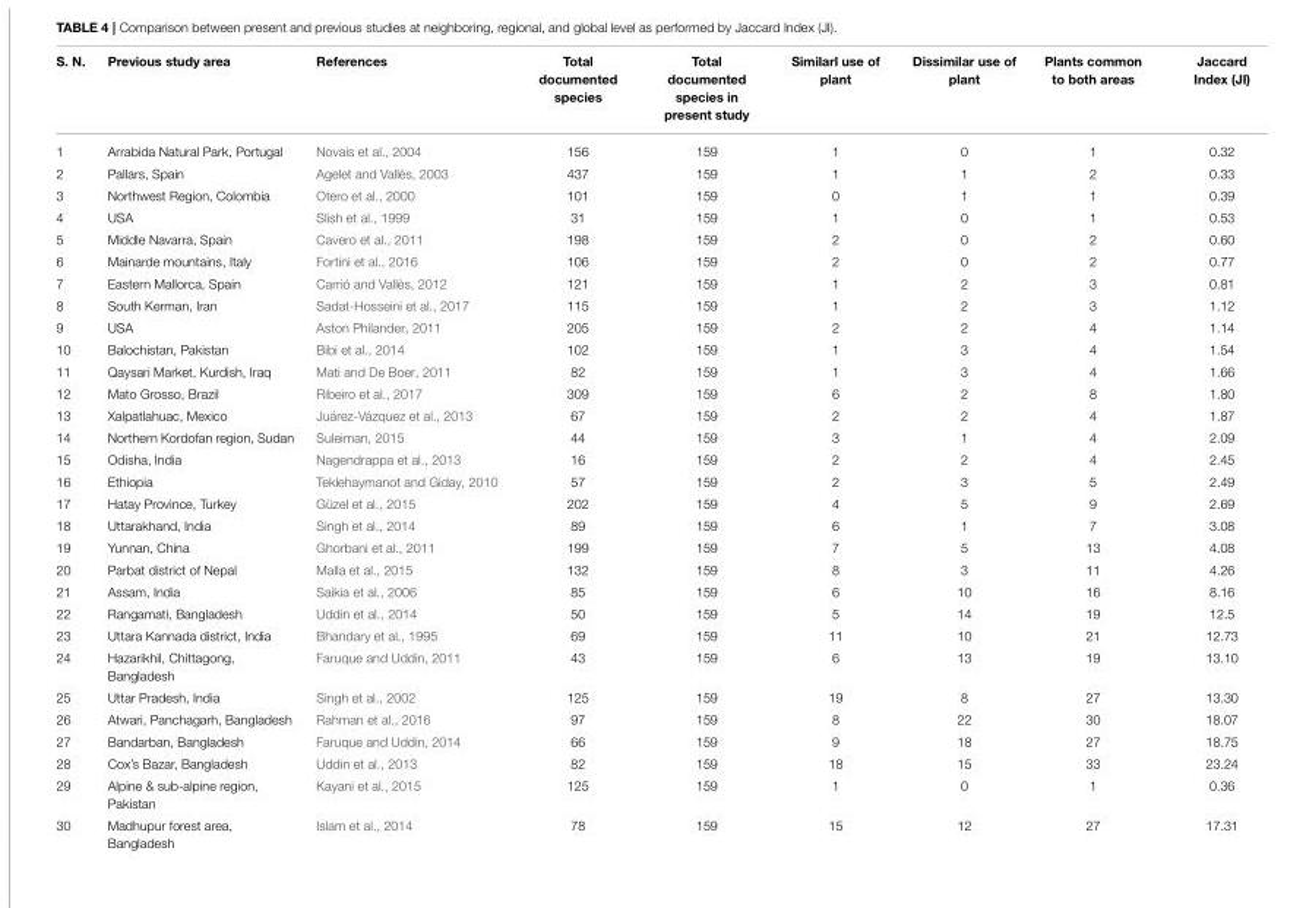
<table><thead><tr><td>S. N.</td><td>Previous study area</td><td>References</td><td>Total documented species</td><td>Total documented species in present study</td><td>Similarl use of plant</td><td>Dissimilar use of plant</td><td>Plants common to both areas</td><td>Jaccard Index (JI)</td></tr></thead><tbody><tr><td>1</td><td>Arrabida Natural Park, Portugal</td><td>Novais et al., 2004</td><td>156</td><td>159</td><td>1</td><td>0</td><td>1</td><td>0.32</td></tr><tr><td>2</td><td>Pallars, Spain</td><td>Agelet and Vallès, 2003</td><td>437</td><td>159</td><td>1</td><td>1</td><td>2</td><td>0.33</td></tr><tr><td>3</td><td>Northwest Region, Colombia</td><td>Otero et al., 2000</td><td>101</td><td>159</td><td>0</td><td>1</td><td>1</td><td>0.39</td></tr><tr><td>4</td><td>USA</td><td>Slish et al., 1999</td><td>31</td><td>159</td><td>1</td><td>0</td><td>1</td><td>0.53</td></tr><tr><td>5</td><td>Middle Navarra, Spain</td><td>Cavero et al., 2011</td><td>198</td><td>159</td><td>2</td><td>0</td><td>2</td><td>0.60</td></tr><tr><td>6</td><td>Mainarde mountains, Italy</td><td>Fortini et al., 2016</td><td>106</td><td>159</td><td>2</td><td>0</td><td>2</td><td>0.77</td></tr><tr><td>7</td><td>Eastern Mallorca, Spain</td><td>Carrió and Vallès, 2012</td><td>121</td><td>159</td><td>1</td><td>2</td><td>3</td><td>0.81</td></tr><tr><td>8</td><td>South Kerman, Iran</td><td>Sadat-Hosseini et al., 2017</td><td>115</td><td>159</td><td>1</td><td>2</td><td>3</td><td>1.12</td></tr><tr><td>9</td><td>USA</td><td>Aston Philander, 2011</td><td>205</td><td>159</td><td>2</td><td>2</td><td>4</td><td>1.14</td></tr><tr><td>10</td><td>Balochistan, Pakistan</td><td>Bibi et al., 2014</td><td>102</td><td>159</td><td>1</td><td>3</td><td>4</td><td>1.54</td></tr><tr><td>11</td><td>Qaysari Market, Kurdish, Iraq</td><td>Mati and De Boer, 2011</td><td>82</td><td>159</td><td>1</td><td>3</td><td>4</td><td>1.66</td></tr><tr><td>12</td><td>Mato Grosso, Brazil</td><td>Ribeiro et al., 2017</td><td>309</td><td>159</td><td>6</td><td>2</td><td>8</td><td>1.80</td></tr><tr><td>13</td><td>Xalpatlahuac, Mexico</td><td>Juárez-Vázquez et al., 2013</td><td>67</td><td>159</td><td>2</td><td>2</td><td>4</td><td>1.87</td></tr><tr><td>14</td><td>Northern Kordofan region, Sudan</td><td>Suleiman, 2015</td><td>44</td><td>159</td><td>3</td><td>1</td><td>4</td><td>2.09</td></tr><tr><td>15</td><td>Odisha, India</td><td>Nagendrappa et al., 2013</td><td>16</td><td>159</td><td>2</td><td>2</td><td>4</td><td>2.45</td></tr><tr><td>16</td><td>Ethiopia</td><td>Teklehaymanot and Giday, 2010</td><td>57</td><td>159</td><td>2</td><td>3</td><td>5</td><td>2.49</td></tr><tr><td>17</td><td>Hatay Province, Turkey</td><td>Güzel et al., 2015</td><td>202</td><td>159</td><td>4</td><td>5</td><td>9</td><td>2.69</td></tr><tr><td>18</td><td>Uttarakhand, India</td><td>Singh et al., 2014</td><td>89</td><td>159</td><td>6</td><td>1</td><td>7</td><td>3.08</td></tr><tr><td>19</td><td>Yunnan, China</td><td>Ghorbani et al., 2011</td><td>199</td><td>159</td><td>7</td><td>5</td><td>13</td><td>4.08</td></tr><tr><td>20</td><td>Parbat district of Nepal</td><td>Malla et al., 2015</td><td>132</td><td>159</td><td>8</td><td>3</td><td>11</td><td>4.26</td></tr><tr><td>21</td><td>Assam, India</td><td>Saikia et al., 2006</td><td>85</td><td>159</td><td>6</td><td>10</td><td>16</td><td>8.16</td></tr><tr><td>22</td><td>Rangamati, Bangladesh</td><td>Uddin et al., 2014</td><td>50</td><td>159</td><td>5</td><td>14</td><td>19</td><td>12.5</td></tr><tr><td>23</td><td>Uttara Kannada district, India</td><td>Bhandary et al., 1995</td><td>69</td><td>159</td><td>11</td><td>10</td><td>21</td><td>12.73</td></tr><tr><td>24</td><td>Hazarikhil, Chittagong, Bangladesh</td><td>Faruque and Uddin, 2011</td><td>43</td><td>159</td><td>6</td><td>13</td><td>19</td><td>13.10</td></tr><tr><td>25</td><td>Uttar Pradesh, India</td><td>Singh et al., 2002</td><td>125</td><td>159</td><td>19</td><td>8</td><td>27</td><td>13.30</td></tr><tr><td>26</td><td>Atwari, Panchagarh, Bangladesh</td><td>Rahman et al., 2016</td><td>97</td><td>159</td><td>8</td><td>22</td><td>30</td><td>18.07</td></tr><tr><td>27</td><td>Bandarban, Bangladesh</td><td>Faruque and Uddin, 2014</td><td>66</td><td>159</td><td>9</td><td>18</td><td>27</td><td>18.75</td></tr><tr><td>28</td><td>Cox’s Bazar, Bangladesh</td><td>Uddin et al., 2013</td><td>82</td><td>159</td><td>18</td><td>15</td><td>33</td><td>23.24</td></tr><tr><td>29</td><td>Alpine &amp; sub-alpine region, Pakistan</td><td>Kayani et al., 2015</td><td>125</td><td>159</td><td>1</td><td>0</td><td>1</td><td>0.36</td></tr><tr><td>30</td><td>Madhupur forest area, Bangladesh</td><td>Islam et al., 2014</td><td>78</td><td>159</td><td>15</td><td>12</td><td>27</td><td>17.31</td></tr></tbody></table>